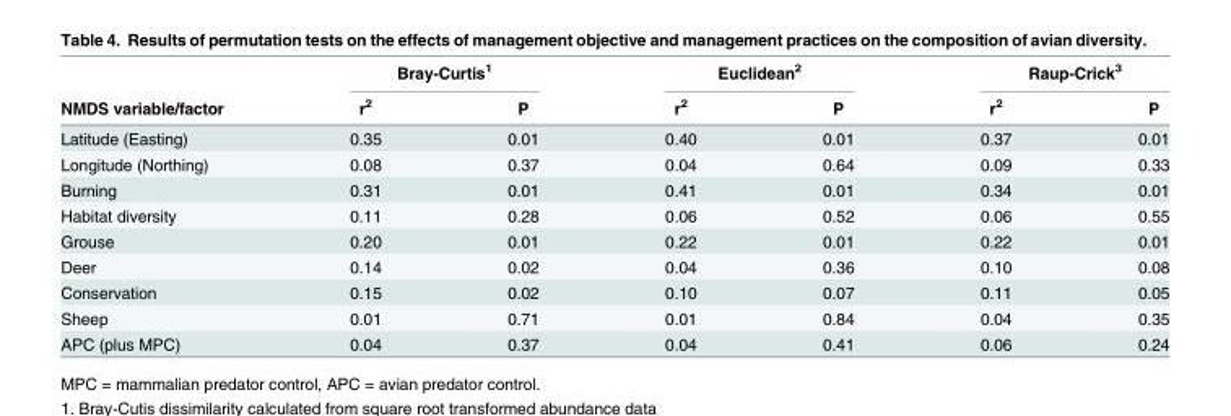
<table><thead><tr><td rowspan="2">NMDS variable/factor</td><td colspan="2">Bray-Curtis<sup>1</sup></td><td colspan="2">Euclidean<sup>2</sup></td><td colspan="2">Raup-Crick<sup>3</sup></td></tr><tr><td>r<sup>2</sup></td><td>P</td><td>r<sup>2</sup></td><td>P</td><td>r<sup>2</sup></td><td>P</td></tr></thead><tbody><tr><td>Latitude (Easting)</td><td>0.35</td><td>0.01</td><td>0.40</td><td>0.01</td><td>0.37</td><td>0.01</td></tr><tr><td>Longitude (Northing)</td><td>0.08</td><td>0.37</td><td>0.04</td><td>0.64</td><td>0.09</td><td>0.33</td></tr><tr><td>Burning</td><td>0.31</td><td>0.01</td><td>0.41</td><td>0.01</td><td>0.34</td><td>0.01</td></tr><tr><td>Habitat diversity</td><td>0.11</td><td>0.28</td><td>0.06</td><td>0.52</td><td>0.06</td><td>0.55</td></tr><tr><td>Grouse</td><td>0.20</td><td>0.01</td><td>0.22</td><td>0.01</td><td>0.22</td><td>0.01</td></tr><tr><td>Deer</td><td>0.14</td><td>0.02</td><td>0.04</td><td>0.36</td><td>0.10</td><td>0.08</td></tr><tr><td>Conservation</td><td>0.15</td><td>0.02</td><td>0.10</td><td>0.07</td><td>0.11</td><td>0.05</td></tr><tr><td>Sheep</td><td>0.01</td><td>0.71</td><td>0.01</td><td>0.84</td><td>0.04</td><td>0.35</td></tr><tr><td>APC (plus MPC)</td><td>0.04</td><td>0.37</td><td>0.04</td><td>0.41</td><td>0.06</td><td>0.24</td></tr></tbody></table>